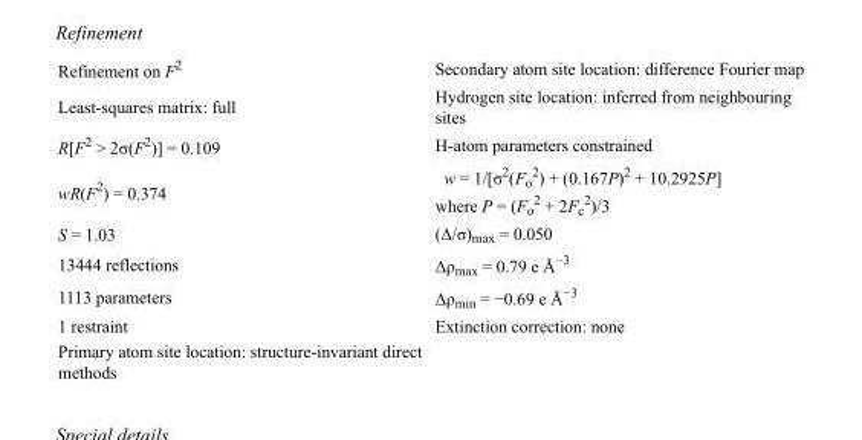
<table><tbody><tr><td>Refinement on F<sup>2</sup></td><td>Secondary atom site location: difference Fourier map</td></tr><tr><td>Least-squares matrix: full</td><td>Hydrogen site location: inferred from neighbouring sites</td></tr><tr><td>R[F<sup>2</sup> &gt; 2σ(F<sup>2</sup>)] = 0.109</td><td>H-atom parameters constrained</td></tr><tr><td>wR(F<sup>2</sup>) = 0.374</td><td>w = 1/[σ<sup>2</sup>(F<sub>o</sub> <sup>2</sup>) + (0.167P)<sup>2</sup> + 10.2925P] where P = (F<sub>o</sub> <sup>2</sup> + 2F<sub>c</sub> <sup>2</sup>)/3</td></tr><tr><td>S = 1.03</td><td>(Δ/σ)<sub>max</sub> = 0.050</td></tr><tr><td>13444 reflections</td><td>Δρ<sub>max</sub> = 0.79 e Å<sup>−3</sup></td></tr><tr><td>1113 parameters</td><td>Δρ<sub>min</sub> = −0.69 e Å<sup>−3</sup></td></tr><tr><td>1 restraint</td><td>Extinction correction: none</td></tr><tr><td>Primary atom site location: structure-invariant direct methods</td><td></td></tr></tbody></table>